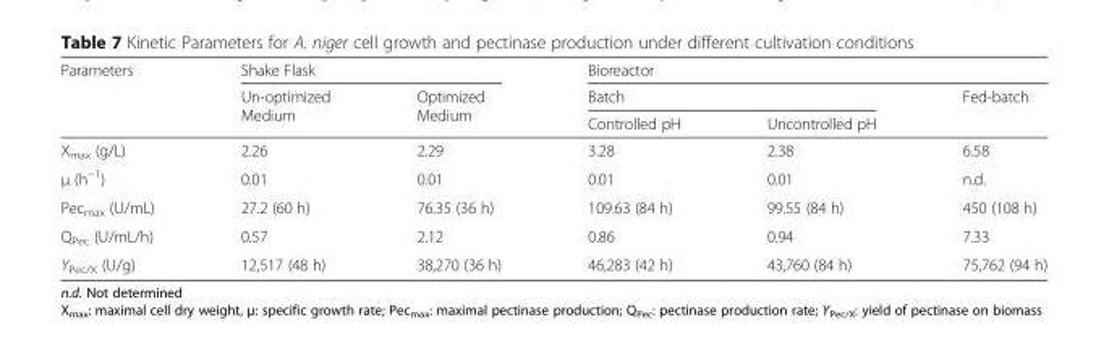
<table><thead><tr><td rowspan="3">Parameters</td><td colspan="2">Shake Flask</td><td colspan="3">Bioreactor</td></tr><tr><td rowspan="2">Un-optimized Medium</td><td rowspan="2">Optimized Medium</td><td colspan="2">Batch</td><td rowspan="2">Fed-batch</td></tr><tr><td>Controlled pH</td><td>Uncontrolled pH</td></tr></thead><tbody><tr><td>X<sub>max</sub> (g/L)</td><td>2.26</td><td>2.29</td><td>3.28</td><td>2.38</td><td>6.58</td></tr><tr><td>μ (h<sup>−1</sup>)</td><td>0.01</td><td>0.01</td><td>0.01</td><td>0.01</td><td>n.d.</td></tr><tr><td>Pec<sub>max</sub> (U/mL)</td><td>27.2 (60 h)</td><td>76.35 (36 h)</td><td>109.63 (84 h)</td><td>99.55 (84 h)</td><td>450 (108 h)</td></tr><tr><td>Q<sub>Pec</sub> (U/mL/h)</td><td>0.57</td><td>2.12</td><td>0.86</td><td>0.94</td><td>7.33</td></tr><tr><td>Y<sub>Pec/X</sub> (U/g)</td><td>12,517 (48 h)</td><td>38,270 (36 h)</td><td>46,283 (42 h)</td><td>43,760 (84 h)</td><td>75,762 (94 h)</td></tr></tbody></table>